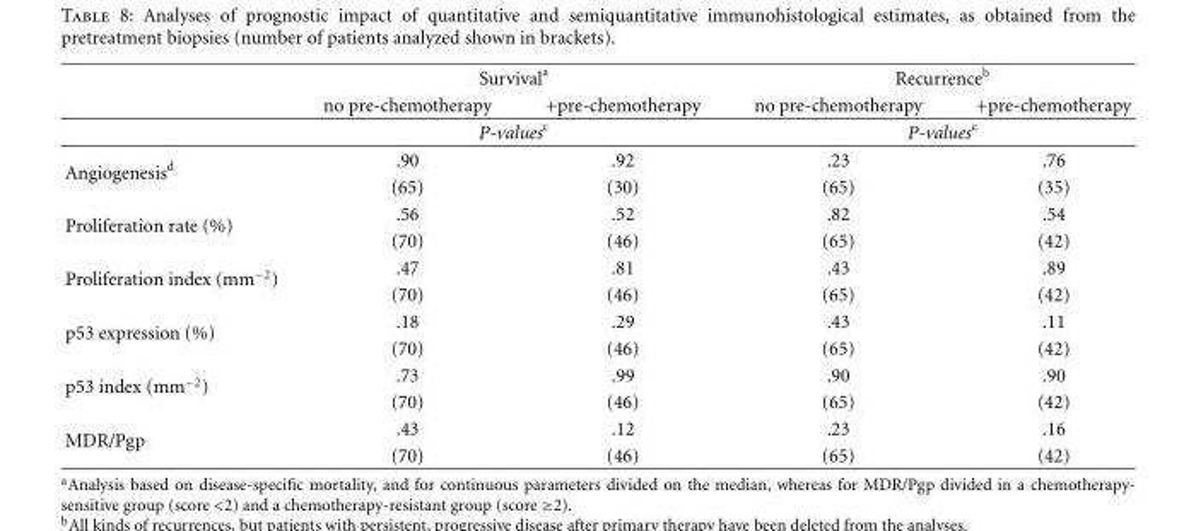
<table><thead><tr><td rowspan="2"></td><td colspan="2">Survival<sup>a</sup></td><td colspan="2">Recurrence<sup>b</sup></td></tr><tr><td>no pre-chemotherapy</td><td>+pre-chemotherapy</td><td>no pre-chemotherapy</td><td>+pre-chemotherapy</td></tr></thead><tbody><tr><td></td><td colspan="2">P-values<sup>c</sup></td><td colspan="2">P-values<sup>c</sup></td></tr><tr><td rowspan="2">Angiogenesis<sup>d</sup></td><td>.90</td><td>.92</td><td>.23</td><td>.76</td></tr><tr><td>(65)</td><td>(30)</td><td>(65)</td><td>(35)</td></tr><tr><td rowspan="2">Proliferation rate (%)</td><td>.56</td><td>.52</td><td>.82</td><td>.54</td></tr><tr><td>(70)</td><td>(46)</td><td>(65)</td><td>(42)</td></tr><tr><td rowspan="2">Proliferation index (mm<sup>−2</sup>)</td><td>.47</td><td>.81</td><td>.43</td><td>.89</td></tr><tr><td>(70)</td><td>(46)</td><td>(65)</td><td>(42)</td></tr><tr><td rowspan="2">p53 expression (%)</td><td>.18</td><td>.29</td><td>.43</td><td>.11</td></tr><tr><td>(70)</td><td>(46)</td><td>(65)</td><td>(42)</td></tr><tr><td rowspan="2">p53 index (mm<sup>−2</sup>)</td><td>.73</td><td>.99</td><td>.90</td><td>.90</td></tr><tr><td>(70)</td><td>(46)</td><td>(65)</td><td>(42)</td></tr><tr><td rowspan="2">MDR/Pgp</td><td>.43</td><td>.12</td><td>.23</td><td>.16</td></tr><tr><td>(70)</td><td>(46)</td><td>(65)</td><td>(42)</td></tr></tbody></table>